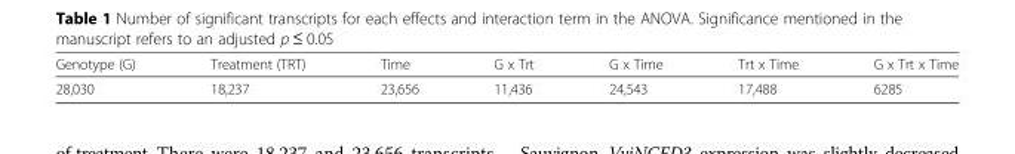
<table><thead><tr><td>Genotype (G)</td><td>Treatment (TRT)</td><td>Time</td><td>G x Trt</td><td>G x Time</td><td>Trt x Time</td><td>G x Trt x Time</td></tr></thead><tbody><tr><td>28,030</td><td>18,237</td><td>23,656</td><td>11,436</td><td>24,543</td><td>17,488</td><td>6285</td></tr></tbody></table>